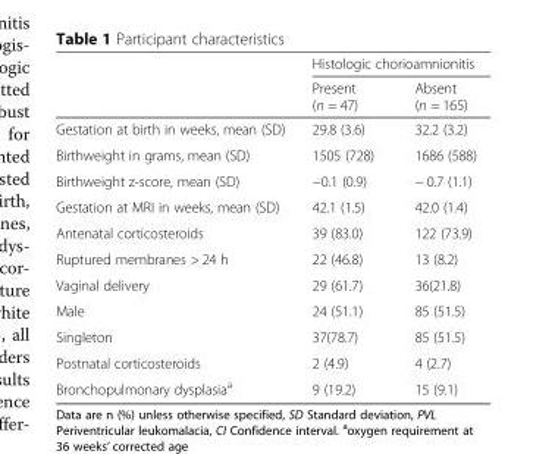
<table><thead><tr><td rowspan="2"></td><td colspan="2">Histologic chorioamnionitis</td></tr><tr><td>Present (n = 47)</td><td>Absent (n = 165)</td></tr></thead><tbody><tr><td>Gestation at birth in weeks, mean (SD)</td><td>29.8 (3.6)</td><td>32.2 (3.2)</td></tr><tr><td>Birthweight in grams, mean (SD)</td><td>1505 (728)</td><td>1686 (588)</td></tr><tr><td>Birthweight z-score, mean (SD)</td><td>−0.1 (0.9)</td><td>− 0.7 (1.1)</td></tr><tr><td>Gestation at MRI in weeks, mean (SD)</td><td>42.1 (1.5)</td><td>42.0 (1.4)</td></tr><tr><td>Antenatal corticosteroids</td><td>39 (83.0)</td><td>122 (73.9)</td></tr><tr><td>Ruptured membranes &gt; 24 h</td><td>22 (46.8)</td><td>13 (8.2)</td></tr><tr><td>Vaginal delivery</td><td>29 (61.7)</td><td>36(21.8)</td></tr><tr><td>Male</td><td>24 (51.1)</td><td>85 (51.5)</td></tr><tr><td>Singleton</td><td>37(78.7)</td><td>85 (51.5)</td></tr><tr><td>Postnatal corticosteroids</td><td>2 (4.9)</td><td>4 (2.7)</td></tr><tr><td>Bronchopulmonary dysplasia<sup>a</sup></td><td>9 (19.2)</td><td>15 (9.1)</td></tr></tbody></table>